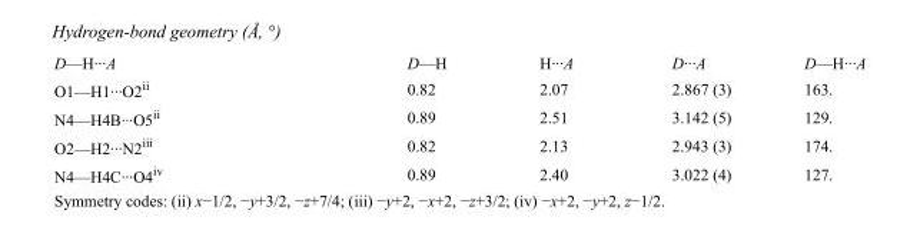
<table><tbody><tr><td>D—H···A</td><td>D—H</td><td>H···A</td><td>D···A</td><td>D—H···A</td></tr><tr><td>O1—H1···O2<sup>ii</sup></td><td>0.82</td><td>2.07</td><td>2.867 (3)</td><td>163.</td></tr><tr><td>N4—H4B···O5<sup>ii</sup></td><td>0.89</td><td>2.51</td><td>3.142 (5)</td><td>129.</td></tr><tr><td>O2—H2···N2<sup>iii</sup></td><td>0.82</td><td>2.13</td><td>2.943 (3)</td><td>174.</td></tr><tr><td>N4—H4C···O4<sup>iv</sup></td><td>0.89</td><td>2.40</td><td>3.022 (4)</td><td>127.</td></tr></tbody></table>